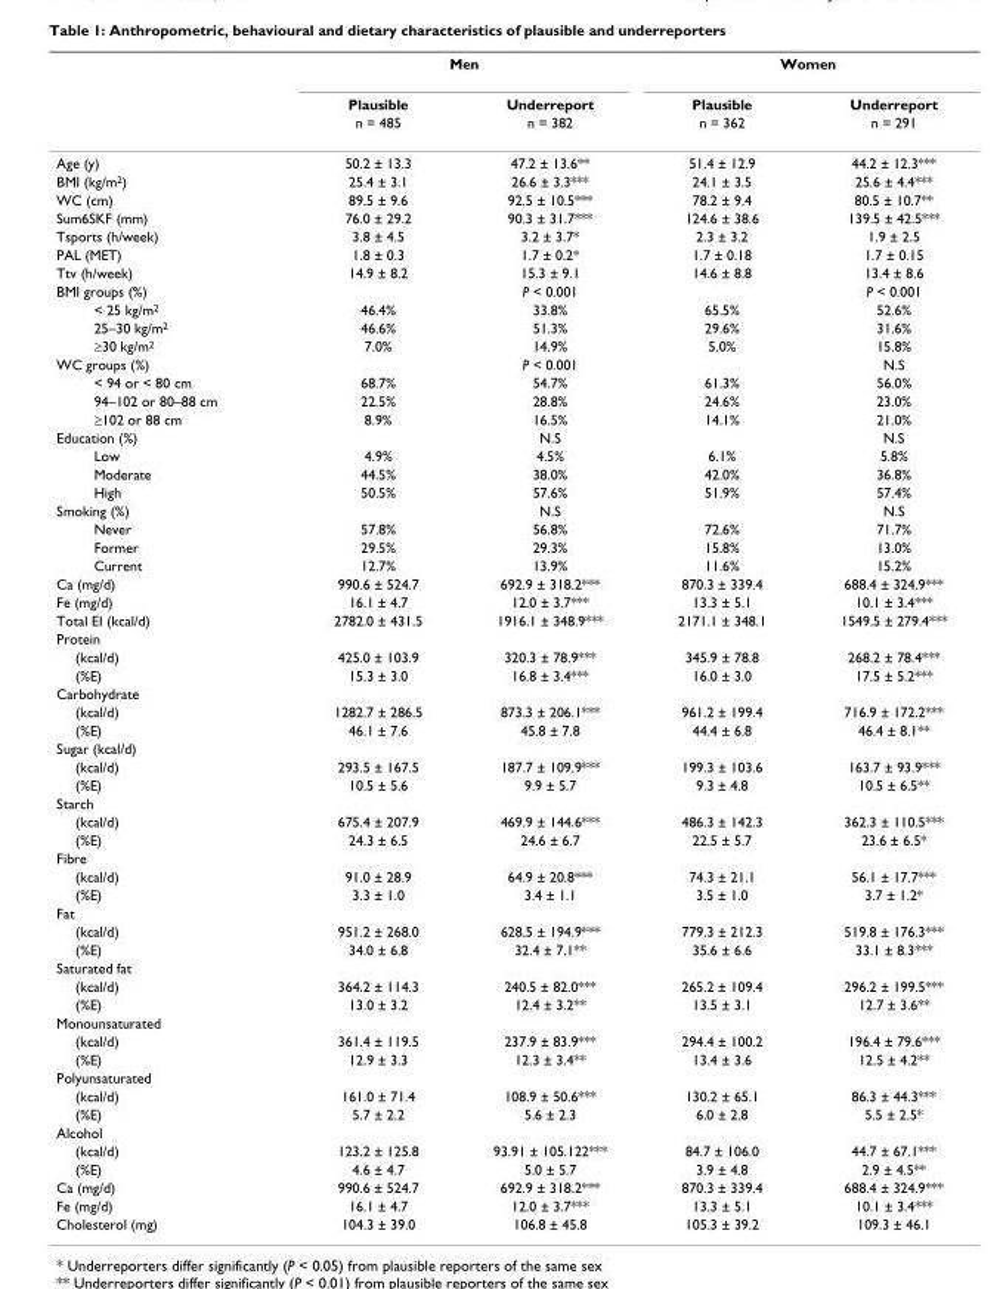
<table><thead><tr><td rowspan="3"></td><td colspan="2">Men</td><td colspan="2">Women</td></tr><tr><td rowspan="2">Plausible n = 485</td><td rowspan="2">Underreport n = 382</td><td rowspan="2">Plausible n = 362</td><td rowspan="2">Underreport n = 291</td></tr><tr></tr></thead><tbody><tr><td>Age (y)</td><td>50.2 ± 13.3</td><td>47.2 ± 13.6**</td><td>51.4 ± 12.9</td><td>44.2 ± 12.3***</td></tr><tr><td>BMI (kg/m<sup>2</sup>)</td><td>25.4 ± 3.1</td><td>26.6 ± 3.3***</td><td>24.1 ± 3.5</td><td>25.6 ± 4.4***</td></tr><tr><td>WC (cm)</td><td>89.5 ± 9.6</td><td>92.5 ± 10.5***</td><td>78.2 ± 9.4</td><td>80.5 ± 10.7**</td></tr><tr><td>Sum6SKF (mm)</td><td>76.0 ± 29.2</td><td>90.3 ± 31.7***</td><td>124.6 ± 38.6</td><td>139.5 ± 42.5***</td></tr><tr><td>Tsports (h/week)</td><td>3.8 ± 4.5</td><td>3.2 ± 3.7*</td><td>2.3 ± 3.2</td><td>1.9 ± 2.5</td></tr><tr><td>PAL (MET)</td><td>1.8 ± 0.3</td><td>1.7 ± 0.2*</td><td>1.7 ± 0.18</td><td>1.7 ± 0.15</td></tr><tr><td>Ttv (h/week)</td><td>14.9 ± 8.2</td><td>15.3 ± 9.1</td><td>14.6 ± 8.8</td><td>13.4 ± 8.6</td></tr><tr><td>BMI groups (%)</td><td></td><td>P &lt; 0.001</td><td></td><td>P &lt; 0.001</td></tr><tr><td>&lt; 25 kg/m<sup>2</sup></td><td>46.4%</td><td>33.8%</td><td>65.5%</td><td>52.6%</td></tr><tr><td>25–30 kg/m<sup>2</sup></td><td>46.6%</td><td>51.3%</td><td>29.6%</td><td>31.6%</td></tr><tr><td>≥30 kg/m<sup>2</sup></td><td>7.0%</td><td>14.9%</td><td>5.0%</td><td>15.8%</td></tr><tr><td>WC groups (%)</td><td></td><td>P &lt; 0.001</td><td></td><td>N.S</td></tr><tr><td>&lt; 94 or &lt; 80 cm</td><td>68.7%</td><td>54.7%</td><td>61.3%</td><td>56.0%</td></tr><tr><td>94–102 or 80–88 cm</td><td>22.5%</td><td>28.8%</td><td>24.6%</td><td>23.0%</td></tr><tr><td>≥102 or 88 cm</td><td>8.9%</td><td>16.5%</td><td>14.1%</td><td>21.0%</td></tr><tr><td>Education (%)</td><td></td><td>N.S</td><td></td><td>N.S</td></tr><tr><td>Low</td><td>4.9%</td><td>4.5%</td><td>6.1%</td><td>5.8%</td></tr><tr><td>Moderate</td><td>44.5%</td><td>38.0%</td><td>42.0%</td><td>36.8%</td></tr><tr><td>High</td><td>50.5%</td><td>57.6%</td><td>51.9%</td><td>57.4%</td></tr><tr><td>Smoking (%)</td><td></td><td>N.S</td><td></td><td>N.S</td></tr><tr><td>Never</td><td>57.8%</td><td>56.8%</td><td>72.6%</td><td>71.7%</td></tr><tr><td>Former</td><td>29.5%</td><td>29.3%</td><td>15.8%</td><td>13.0%</td></tr><tr><td>Current</td><td>12.7%</td><td>13.9%</td><td>11.6%</td><td>15.2%</td></tr><tr><td>Ca (mg/d)</td><td>990.6 ± 524.7</td><td>692.9 ± 318.2***</td><td>870.3 ± 339.4</td><td>688.4 ± 324.9***</td></tr><tr><td>Fe (mg/d)</td><td>16.1 ± 4.7</td><td>12.0 ± 3.7***</td><td>13.3 ± 5.1</td><td>10.1 ± 3.4***</td></tr><tr><td>Total EI (kcal/d)</td><td>2782.0 ± 431.5</td><td>1916.1 ± 348.9***</td><td>2171.1 ± 348.1</td><td>1549.5 ± 279.4***</td></tr><tr><td colspan="5">Protein</td></tr><tr><td>(kcal/d)</td><td>425.0 ± 103.9</td><td>320.3 ± 78.9***</td><td>345.9 ± 78.8</td><td>268.2 ± 78.4***</td></tr><tr><td>(%E)</td><td>15.3 ± 3.0</td><td>16.8 ± 3.4***</td><td>16.0 ± 3.0</td><td>17.5 ± 5.2***</td></tr><tr><td colspan="5">Carbohydrate</td></tr><tr><td>(kcal/d)</td><td>1282.7 ± 286.5</td><td>873.3 ± 206.1***</td><td>961.2 ± 199.4</td><td>716.9 ± 172.2***</td></tr><tr><td>(%E)</td><td>46.1 ± 7.6</td><td>45.8 ± 7.8</td><td>44.4 ± 6.8</td><td>46.4 ± 8.1**</td></tr><tr><td colspan="5">Sugar (kcal/d)</td></tr><tr><td>(kcal/d)</td><td>293.5 ± 167.5</td><td>187.7 ± 109.9***</td><td>199.3 ± 103.6</td><td>163.7 ± 93.9***</td></tr><tr><td>(%E)</td><td>10.5 ± 5.6</td><td>9.9 ± 5.7</td><td>9.3 ± 4.8</td><td>10.5 ± 6.5**</td></tr><tr><td colspan="5">Starch</td></tr><tr><td>(kcal/d)</td><td>675.4 ± 207.9</td><td>469.9 ± 144.6***</td><td>486.3 ± 142.3</td><td>362.3 ± 110.5***</td></tr><tr><td>(%E)</td><td>24.3 ± 6.5</td><td>24.6 ± 6.7</td><td>22.5 ± 5.7</td><td>23.6 ± 6.5*</td></tr><tr><td colspan="5">Fibre</td></tr><tr><td>(kcal/d)</td><td>91.0 ± 28.9</td><td>64.9 ± 20.8***</td><td>74.3 ± 21.1</td><td>56.1 ± 17.7***</td></tr><tr><td>(%E)</td><td>3.3 ± 1.0</td><td>3.4 ± 1.1</td><td>3.5 ± 1.0</td><td>3.7 ± 1.2*</td></tr><tr><td colspan="5">Fat</td></tr><tr><td>(kcal/d)</td><td>951.2 ± 268.0</td><td>628.5 ± 194.9***</td><td>779.3 ± 212.3</td><td>519.8 ± 176.3***</td></tr><tr><td>(%E)</td><td>34.0 ± 6.8</td><td>32.4 ± 7.1**</td><td>35.6 ± 6.6</td><td>33.1 ± 8.3***</td></tr><tr><td colspan="5">Saturated fat</td></tr><tr><td>(kcal/d)</td><td>364.2 ± 114.3</td><td>240.5 ± 82.0***</td><td>265.2 ± 109.4</td><td>296.2 ± 199.5***</td></tr><tr><td>(%E)</td><td>13.0 ± 3.2</td><td>12.4 ± 3.2**</td><td>13.5 ± 3.1</td><td>12.7 ± 3.6**</td></tr><tr><td colspan="5">Monounsaturated</td></tr><tr><td>(kcal/d)</td><td>361.4 ± 119.5</td><td>237.9 ± 83.9***</td><td>294.4 ± 100.2</td><td>196.4 ± 79.6***</td></tr><tr><td>(%E)</td><td>12.9 ± 3.3</td><td>12.3 ± 3.4**</td><td>13.4 ± 3.6</td><td>12.5 ± 4.2**</td></tr><tr><td colspan="5">Polyunsaturated</td></tr><tr><td>(kcal/d)</td><td>161.0 ± 71.4</td><td>108.9 ± 50.6***</td><td>130.2 ± 65.1</td><td>86.3 ± 44.3***</td></tr><tr><td>(%E)</td><td>5.7 ± 2.2</td><td>5.6 ± 2.3</td><td>6.0 ± 2.8</td><td>5.5 ± 2.5*</td></tr><tr><td colspan="5">Alcohol</td></tr><tr><td>(kcal/d)</td><td>123.2 ± 125.8</td><td>93.91 ± 105.122***</td><td>84.7 ± 106.0</td><td>44.7 ± 67.1***</td></tr><tr><td>(%E)</td><td>4.6 ± 4.7</td><td>5.0 ± 5.7</td><td>3.9 ± 4.8</td><td>2.9 ± 4.5**</td></tr><tr><td>Ca (mg/d)</td><td>990.6 ± 524.7</td><td>692.9 ± 318.2***</td><td>870.3 ± 339.4</td><td>688.4 ± 324.9***</td></tr><tr><td>Fe (mg/d)</td><td>16.1 ± 4.7</td><td>12.0 ± 3.7***</td><td>13.3 ± 5.1</td><td>10.1 ± 3.4***</td></tr><tr><td>Cholesterol (mg)</td><td>104.3 ± 39.0</td><td>106.8 ± 45.8</td><td>105.3 ± 39.2</td><td>109.3 ± 46.1</td></tr></tbody></table>